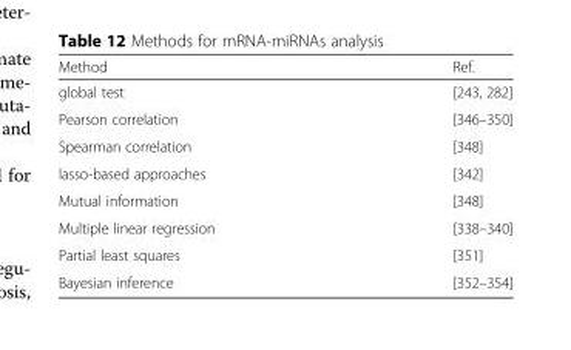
<table><thead><tr><td>Method</td><td>Ref.</td></tr></thead><tbody><tr><td>global test</td><td>[243, 282]</td></tr><tr><td>Pearson correlation</td><td>[346–350]</td></tr><tr><td>Spearman correlation</td><td>[348]</td></tr><tr><td>lasso-based approaches</td><td>[342]</td></tr><tr><td>Mutual information</td><td>[348]</td></tr><tr><td>Multiple linear regression</td><td>[338–340]</td></tr><tr><td>Partial least squares</td><td>[351]</td></tr><tr><td>Bayesian inference</td><td>[352–354]</td></tr></tbody></table>